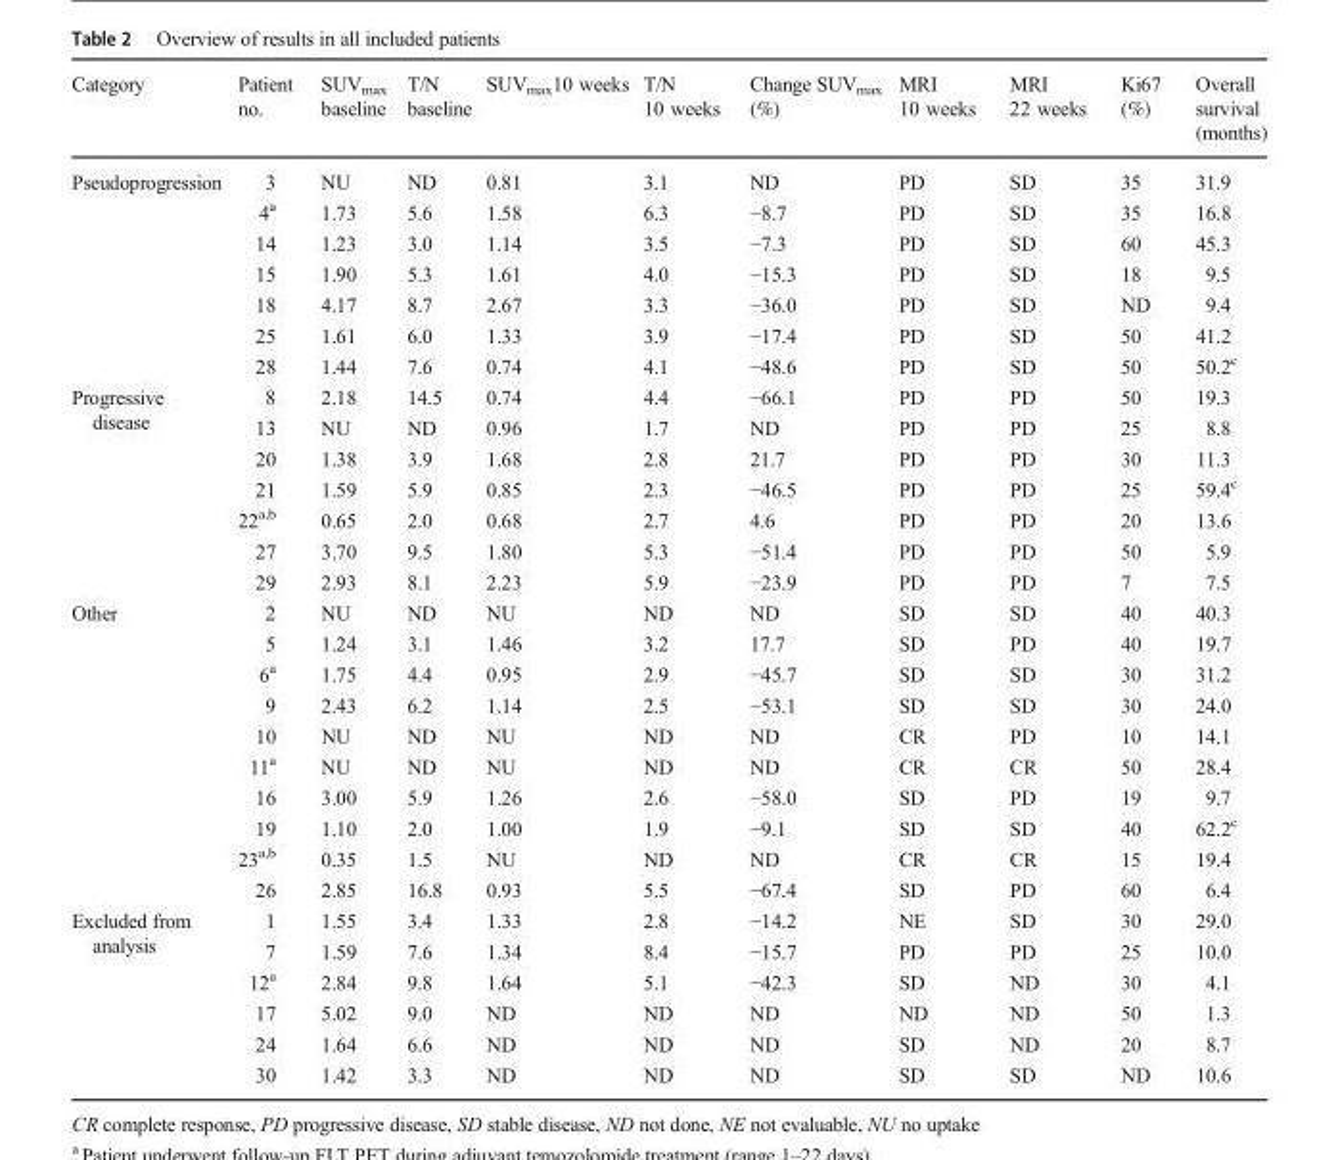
<table><thead><tr><td>Category</td><td>Patient no.</td><td>SUV<sub>max</sub> baseline</td><td>T/N baseline</td><td>SUV<sub>max</sub>10 weeks</td><td>T/N 10 weeks</td><td>Change SUV<sub>max</sub> (%)</td><td>MRI 10 weeks</td><td>MRI 22 weeks</td><td>Ki67 (%)</td><td>Overall survival (months)</td></tr></thead><tbody><tr><td rowspan="7">Pseudoprogression</td><td>3</td><td>NU</td><td>ND</td><td>0.81</td><td>3.1</td><td>ND</td><td>PD</td><td>SD</td><td>35</td><td>31.9</td></tr><tr><td>4<sup>a</sup></td><td>1.73</td><td>5.6</td><td>1.58</td><td>6.3</td><td>−8.7</td><td>PD</td><td>SD</td><td>35</td><td>16.8</td></tr><tr><td>14</td><td>1.23</td><td>3.0</td><td>1.14</td><td>3.5</td><td>−7.3</td><td>PD</td><td>SD</td><td>60</td><td>45.3</td></tr><tr><td>15</td><td>1.90</td><td>5.3</td><td>1.61</td><td>4.0</td><td>−15.3</td><td>PD</td><td>SD</td><td>18</td><td>9.5</td></tr><tr><td>18</td><td>4.17</td><td>8.7</td><td>2.67</td><td>3.3</td><td>−36.0</td><td>PD</td><td>SD</td><td>ND</td><td>9.4</td></tr><tr><td>25</td><td>1.61</td><td>6.0</td><td>1.33</td><td>3.9</td><td>−17.4</td><td>PD</td><td>SD</td><td>50</td><td>41.2</td></tr><tr><td>28</td><td>1.44</td><td>7.6</td><td>0.74</td><td>4.1</td><td>−48.6</td><td>PD</td><td>SD</td><td>50</td><td>50.2<sup>c</sup></td></tr><tr><td rowspan="7">Progressive disease</td><td>8</td><td>2.18</td><td>14.5</td><td>0.74</td><td>4.4</td><td>−66.1</td><td>PD</td><td>PD</td><td>50</td><td>19.3</td></tr><tr><td>13</td><td>NU</td><td>ND</td><td>0.96</td><td>1.7</td><td>ND</td><td>PD</td><td>PD</td><td>25</td><td>8.8</td></tr><tr><td>20</td><td>1.38</td><td>3.9</td><td>1.68</td><td>2.8</td><td>21.7</td><td>PD</td><td>PD</td><td>30</td><td>11.3</td></tr><tr><td>21</td><td>1.59</td><td>5.9</td><td>0.85</td><td>2.3</td><td>−46.5</td><td>PD</td><td>PD</td><td>25</td><td>59.4<sup>c</sup></td></tr><tr><td>22<sup>a,b</sup></td><td>0.65</td><td>2.0</td><td>0.68</td><td>2.7</td><td>4.6</td><td>PD</td><td>PD</td><td>20</td><td>13.6</td></tr><tr><td>27</td><td>3.70</td><td>9.5</td><td>1.80</td><td>5.3</td><td>−51.4</td><td>PD</td><td>PD</td><td>50</td><td>5.9</td></tr><tr><td>29</td><td>2.93</td><td>8.1</td><td>2.23</td><td>5.9</td><td>−23.9</td><td>PD</td><td>PD</td><td>7</td><td>7.5</td></tr><tr><td rowspan="10">Other</td><td>2</td><td>NU</td><td>ND</td><td>NU</td><td>ND</td><td>ND</td><td>SD</td><td>SD</td><td>40</td><td>40.3</td></tr><tr><td>5</td><td>1.24</td><td>3.1</td><td>1.46</td><td>3.2</td><td>17.7</td><td>SD</td><td>PD</td><td>40</td><td>19.7</td></tr><tr><td>6<sup>a</sup></td><td>1.75</td><td>4.4</td><td>0.95</td><td>2.9</td><td>−45.7</td><td>SD</td><td>SD</td><td>30</td><td>31.2</td></tr><tr><td>9</td><td>2.43</td><td>6.2</td><td>1.14</td><td>2.5</td><td>−53.1</td><td>SD</td><td>SD</td><td>30</td><td>24.0</td></tr><tr><td>10</td><td>NU</td><td>ND</td><td>NU</td><td>ND</td><td>ND</td><td>CR</td><td>PD</td><td>10</td><td>14.1</td></tr><tr><td>11<sup>a</sup></td><td>NU</td><td>ND</td><td>NU</td><td>ND</td><td>ND</td><td>CR</td><td>CR</td><td>50</td><td>28.4</td></tr><tr><td>16</td><td>3.00</td><td>5.9</td><td>1.26</td><td>2.6</td><td>−58.0</td><td>SD</td><td>PD</td><td>19</td><td>9.7</td></tr><tr><td>19</td><td>1.10</td><td>2.0</td><td>1.00</td><td>1.9</td><td>−9.1</td><td>SD</td><td>SD</td><td>40</td><td>62.2<sup>c</sup></td></tr><tr><td>23<sup>a,b</sup></td><td>0.35</td><td>1.5</td><td>NU</td><td>ND</td><td>ND</td><td>CR</td><td>CR</td><td>15</td><td>19.4</td></tr><tr><td>26</td><td>2.85</td><td>16.8</td><td>0.93</td><td>5.5</td><td>−67.4</td><td>SD</td><td>PD</td><td>60</td><td>6.4</td></tr><tr><td rowspan="6">Excluded from analysis</td><td>1</td><td>1.55</td><td>3.4</td><td>1.33</td><td>2.8</td><td>−14.2</td><td>NE</td><td>SD</td><td>30</td><td>29.0</td></tr><tr><td>7</td><td>1.59</td><td>7.6</td><td>1.34</td><td>8.4</td><td>−15.7</td><td>PD</td><td>PD</td><td>25</td><td>10.0</td></tr><tr><td>12<sup>a</sup></td><td>2.84</td><td>9.8</td><td>1.64</td><td>5.1</td><td>−42.3</td><td>SD</td><td>ND</td><td>30</td><td>4.1</td></tr><tr><td>17</td><td>5.02</td><td>9.0</td><td>ND</td><td>ND</td><td>ND</td><td>ND</td><td>ND</td><td>50</td><td>1.3</td></tr><tr><td>24</td><td>1.64</td><td>6.6</td><td>ND</td><td>ND</td><td>ND</td><td>SD</td><td>ND</td><td>20</td><td>8.7</td></tr><tr><td>30</td><td>1.42</td><td>3.3</td><td>ND</td><td>ND</td><td>ND</td><td>SD</td><td>SD</td><td>ND</td><td>10.6</td></tr></tbody></table>